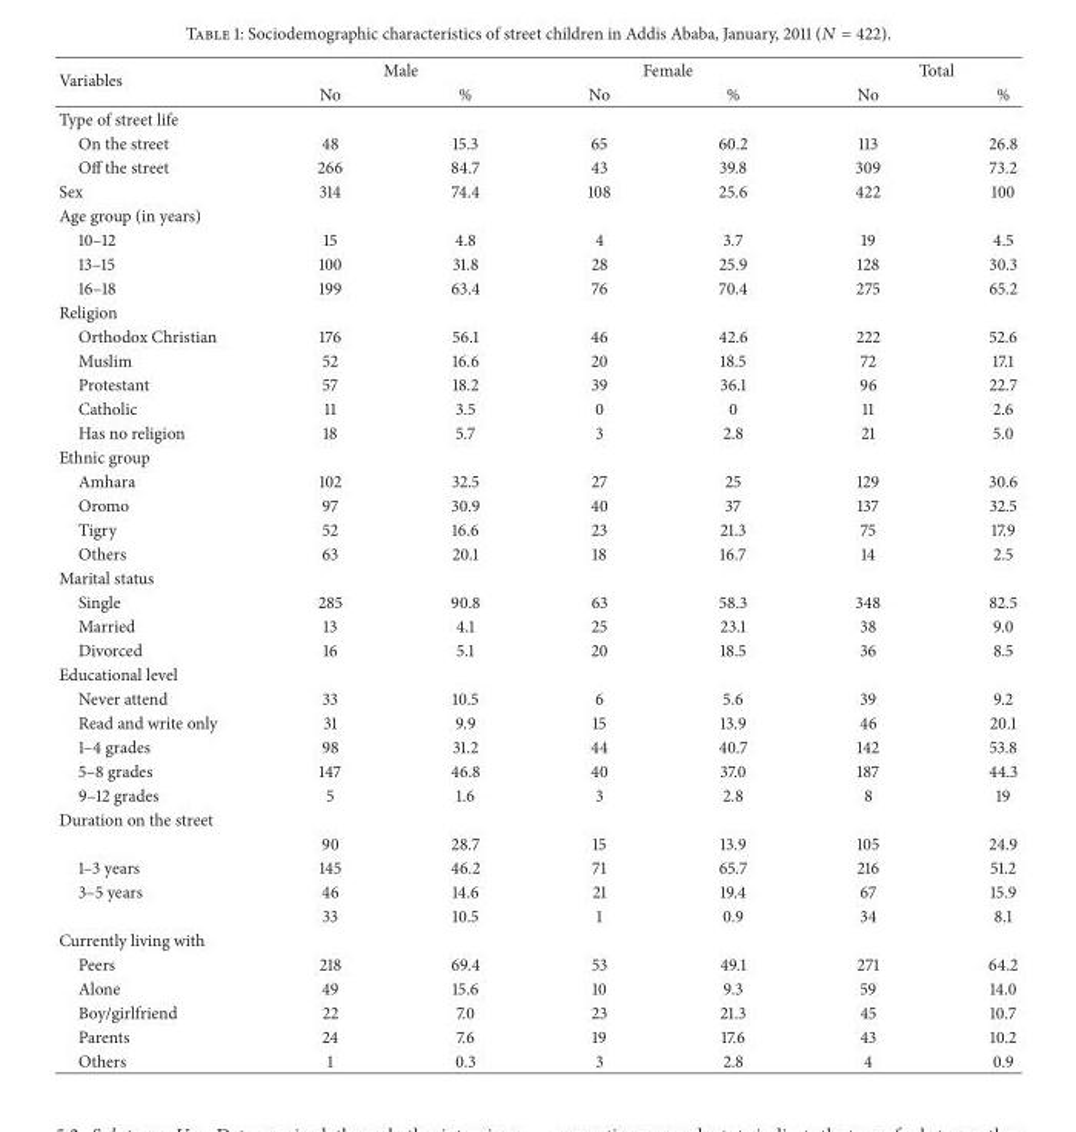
<table><thead><tr><td rowspan="2">Variables</td><td colspan="2">Male</td><td colspan="2">Female</td><td colspan="2">Total</td></tr><tr><td>No</td><td>%</td><td>No</td><td>%</td><td>No</td><td>%</td></tr></thead><tbody><tr><td colspan="7">Type of street life</td></tr><tr><td>On the street</td><td>48</td><td>15.3</td><td>65</td><td>60.2</td><td>113</td><td>26.8</td></tr><tr><td>Off the street</td><td>266</td><td>84.7</td><td>43</td><td>39.8</td><td>309</td><td>73.2</td></tr><tr><td>Sex</td><td>314</td><td>74.4</td><td>108</td><td>25.6</td><td>422</td><td>100</td></tr><tr><td colspan="7">Age group (in years)</td></tr><tr><td>10–12</td><td>15</td><td>4.8</td><td>4</td><td>3.7</td><td>19</td><td>4.5</td></tr><tr><td>13–15</td><td>100</td><td>31.8</td><td>28</td><td>25.9</td><td>128</td><td>30.3</td></tr><tr><td>16–18</td><td>199</td><td>63.4</td><td>76</td><td>70.4</td><td>275</td><td>65.2</td></tr><tr><td colspan="7">Religion</td></tr><tr><td>Orthodox Christian</td><td>176</td><td>56.1</td><td>46</td><td>42.6</td><td>222</td><td>52.6</td></tr><tr><td>Muslim</td><td>52</td><td>16.6</td><td>20</td><td>18.5</td><td>72</td><td>17.1</td></tr><tr><td>Protestant</td><td>57</td><td>18.2</td><td>39</td><td>36.1</td><td>96</td><td>22.7</td></tr><tr><td>Catholic</td><td>11</td><td>3.5</td><td>0</td><td>0</td><td>11</td><td>2.6</td></tr><tr><td>Has no religion</td><td>18</td><td>5.7</td><td>3</td><td>2.8</td><td>21</td><td>5.0</td></tr><tr><td colspan="7">Ethnic group</td></tr><tr><td>Amhara</td><td>102</td><td>32.5</td><td>27</td><td>25</td><td>129</td><td>30.6</td></tr><tr><td>Oromo</td><td>97</td><td>30.9</td><td>40</td><td>37</td><td>137</td><td>32.5</td></tr><tr><td>Tigry</td><td>52</td><td>16.6</td><td>23</td><td>21.3</td><td>75</td><td>17.9</td></tr><tr><td>Others</td><td>63</td><td>20.1</td><td>18</td><td>16.7</td><td>14</td><td>2.5</td></tr><tr><td colspan="7">Marital status</td></tr><tr><td>Single</td><td>285</td><td>90.8</td><td>63</td><td>58.3</td><td>348</td><td>82.5</td></tr><tr><td>Married</td><td>13</td><td>4.1</td><td>25</td><td>23.1</td><td>38</td><td>9.0</td></tr><tr><td>Divorced</td><td>16</td><td>5.1</td><td>20</td><td>18.5</td><td>36</td><td>8.5</td></tr><tr><td colspan="7">Educational level</td></tr><tr><td>Never attend</td><td>33</td><td>10.5</td><td>6</td><td>5.6</td><td>39</td><td>9.2</td></tr><tr><td>Read and write only</td><td>31</td><td>9.9</td><td>15</td><td>13.9</td><td>46</td><td>20.1</td></tr><tr><td>1–4 grades</td><td>98</td><td>31.2</td><td>44</td><td>40.7</td><td>142</td><td>53.8</td></tr><tr><td>5–8 grades</td><td>147</td><td>46.8</td><td>40</td><td>37.0</td><td>187</td><td>44.3</td></tr><tr><td>9–12 grades</td><td>5</td><td>1.6</td><td>3</td><td>2.8</td><td>8</td><td>19</td></tr><tr><td colspan="7">Duration on the street</td></tr><tr><td></td><td>90</td><td>28.7</td><td>15</td><td>13.9</td><td>105</td><td>24.9</td></tr><tr><td>1–3 years</td><td>145</td><td>46.2</td><td>71</td><td>65.7</td><td>216</td><td>51.2</td></tr><tr><td rowspan="2">3–5 years</td><td>46</td><td>14.6</td><td>21</td><td>19.4</td><td>67</td><td>15.9</td></tr><tr><td>33</td><td>10.5</td><td>1</td><td>0.9</td><td>34</td><td>8.1</td></tr><tr><td colspan="7">Currently living with</td></tr><tr><td>Peers</td><td>218</td><td>69.4</td><td>53</td><td>49.1</td><td>271</td><td>64.2</td></tr><tr><td>Alone</td><td>49</td><td>15.6</td><td>10</td><td>9.3</td><td>59</td><td>14.0</td></tr><tr><td>Boy/girlfriend</td><td>22</td><td>7.0</td><td>23</td><td>21.3</td><td>45</td><td>10.7</td></tr><tr><td>Parents</td><td>24</td><td>7.6</td><td>19</td><td>17.6</td><td>43</td><td>10.2</td></tr><tr><td>Others</td><td>1</td><td>0.3</td><td>3</td><td>2.8</td><td>4</td><td>0.9</td></tr></tbody></table>